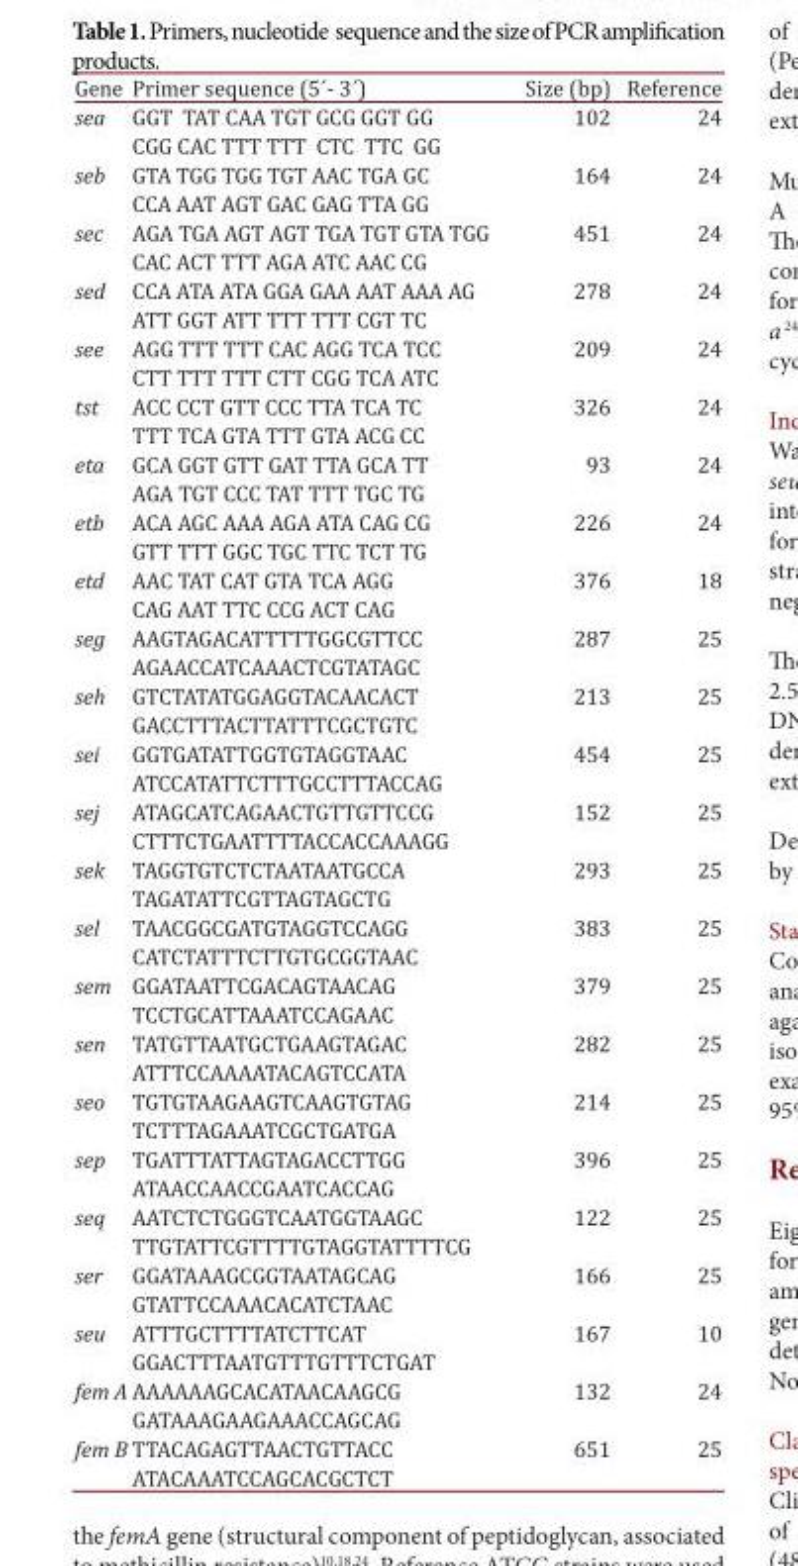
<table><thead><tr><td>Gene</td><td>Primer sequence (5´- 3´)</td><td>Size (bp)</td><td>Reference</td></tr></thead><tbody><tr><td rowspan="2">sea</td><td>GGT TAT CAA TGT GCG GGT GG</td><td>102</td><td>24</td></tr><tr><td>CGG CAC TTT TTT CTC TTC GG</td><td></td><td></td></tr><tr><td rowspan="2">seb</td><td>GTA TGG TGG TGT AAC TGA GC</td><td>164</td><td>24</td></tr><tr><td>CCA AAT AGT GAC GAG TTA GG</td><td></td><td></td></tr><tr><td rowspan="2">sec</td><td>AGA TGA AGT AGT TGA TGT GTA TGG</td><td>451</td><td>24</td></tr><tr><td>CAC ACT TTT AGA ATC AAC CG</td><td></td><td></td></tr><tr><td rowspan="2">sed</td><td>CCA ATA ATA GGA GAA AAT AAA AG</td><td>278</td><td>24</td></tr><tr><td>ATT GGT ATT TTT TTT CGT TC</td><td></td><td></td></tr><tr><td rowspan="2">see</td><td>AGG TTT TTT CAC AGG TCA TCC</td><td>209</td><td>24</td></tr><tr><td>CTT TTT TTT CTT CGG TCA ATC</td><td></td><td></td></tr><tr><td rowspan="2">tst</td><td>ACC CCT GTT CCC TTA TCA TC</td><td>326</td><td>24</td></tr><tr><td>TTT TCA GTA TTT GTA ACG CC</td><td></td><td></td></tr><tr><td rowspan="2">eta</td><td>GCA GGT GTT GAT TTA GCA TT</td><td>93</td><td>24</td></tr><tr><td>AGA TGT CCC TAT TTT TGC TG</td><td></td><td></td></tr><tr><td rowspan="2">etb</td><td>ACA AGC AAA AGA ATA CAG CG</td><td>226</td><td>24</td></tr><tr><td>GTT TTT GGC TGC TTC TCT TG</td><td></td><td></td></tr><tr><td rowspan="2">etd</td><td>AAC TAT CAT GTA TCA AGG</td><td>376</td><td>18</td></tr><tr><td>CAG AAT TTC CCG ACT CAG</td><td></td><td></td></tr><tr><td rowspan="2">seg</td><td>AAGTAGACATTTTTGGCGTTCC</td><td>287</td><td>25</td></tr><tr><td>AGAACCATCAAACTCGTATAGC</td><td></td><td></td></tr><tr><td rowspan="2">seh</td><td>GTCTATATGGAGGTACAACACT</td><td>213</td><td>25</td></tr><tr><td>GACCTTTACTTATTTCGCTGTC</td><td></td><td></td></tr><tr><td rowspan="2">sei</td><td>GGTGATATTGGTGTAGGTAAC</td><td>454</td><td>25</td></tr><tr><td>ATCCATATTCTTTGCCTTTACCAG</td><td></td><td></td></tr><tr><td rowspan="2">sej</td><td>ATAGCATCAGAACTGTTGTTCCG</td><td>152</td><td>25</td></tr><tr><td>CTTTCTGAATTTTACCACCAAAGG</td><td></td><td></td></tr><tr><td rowspan="2">sek</td><td>TAGGTGTCTCTAATAATGCCA</td><td>293</td><td>25</td></tr><tr><td>TAGATATTCGTTAGTAGCTG</td><td></td><td></td></tr><tr><td rowspan="2">sel</td><td>TAACGGCGATGTAGGTCCAGG</td><td>383</td><td>25</td></tr><tr><td>CATCTATTTCTTGTGCGGTAAC</td><td></td><td></td></tr><tr><td rowspan="2">sem</td><td>GGATAATTCGACAGTAACAG</td><td>379</td><td>25</td></tr><tr><td>TCCTGCATTAAATCCAGAAC</td><td></td><td></td></tr><tr><td rowspan="2">sen</td><td>TATGTTAATGCTGAAGTAGAC</td><td>282</td><td>25</td></tr><tr><td>ATTTCCAAAATACAGTCCATA</td><td></td><td></td></tr><tr><td rowspan="2">seo</td><td>TGTGTAAGAAGTCAAGTGTAG</td><td>214</td><td>25</td></tr><tr><td>TCTTTAGAAATCGCTGATGA</td><td></td><td></td></tr><tr><td rowspan="2">sep</td><td>TGATTTATTAGTAGACCTTGG</td><td>396</td><td>25</td></tr><tr><td>ATAACCAACCGAATCACCAG</td><td></td><td></td></tr><tr><td rowspan="2">seq</td><td>AATCTCTGGGTCAATGGTAAGC</td><td>122</td><td>25</td></tr><tr><td>TTGTATTCGTTTTGTAGGTATTTTCG</td><td></td><td></td></tr><tr><td rowspan="2">ser</td><td>GGATAAAGCGGTAATAGCAG</td><td>166</td><td>25</td></tr><tr><td>GTATTCCAAACACATCTAAC</td><td></td><td></td></tr><tr><td rowspan="2">seu</td><td>ATTTGCTTTTATCTTCAT</td><td>167</td><td>10</td></tr><tr><td>GGACTTTAATGTTTGTTTCTGAT</td><td></td><td></td></tr><tr><td rowspan="2">fem A</td><td>AAAAAAGCACATAACAAGCG</td><td>132</td><td>24</td></tr><tr><td>GATAAAGAAGAAACCAGCAG</td><td></td><td></td></tr><tr><td rowspan="2">fem B</td><td>TTACAGAGTTAACTGTTACC</td><td>651</td><td>25</td></tr><tr><td>ATACAAATCCAGCACGCTCT</td><td></td><td></td></tr></tbody></table>